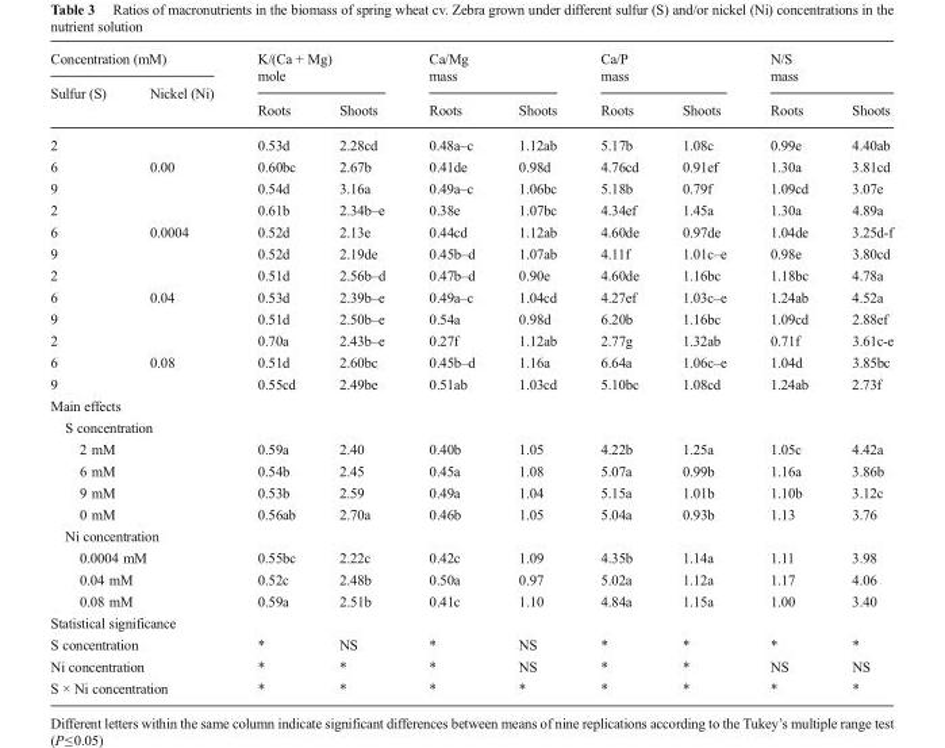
<table><thead><tr><td colspan="2">Concentration (mM)</td><td rowspan="2" colspan="2">K/(Ca + Mg) mole</td><td rowspan="2" colspan="2">Ca/Mg mass</td><td rowspan="2" colspan="2">Ca/P mass</td><td rowspan="2" colspan="2">N/S mass</td></tr><tr><td rowspan="2">Sulfur (S)</td><td rowspan="2">Nickel (Ni)</td></tr><tr><td>Roots</td><td>Shoots</td><td>Roots</td><td>Shoots</td><td>Roots</td><td>Shoots</td><td>Roots</td><td>Shoots</td></tr></thead><tbody><tr><td>2</td><td></td><td>0.53d</td><td>2.28cd</td><td>0.48a–c</td><td>1.12ab</td><td>5.17b</td><td>1.08c</td><td>0.99e</td><td>4.40ab</td></tr><tr><td>6</td><td>0.00</td><td>0.60bc</td><td>2.67b</td><td>0.41de</td><td>0.98d</td><td>4.76cd</td><td>0.91ef</td><td>1.30a</td><td>3.81cd</td></tr><tr><td>9</td><td></td><td>0.54d</td><td>3.16a</td><td>0.49a–c</td><td>1.06bc</td><td>5.18b</td><td>0.79f</td><td>1.09cd</td><td>3.07e</td></tr><tr><td>2</td><td></td><td>0.61b</td><td>2.34b–e</td><td>0.38e</td><td>1.07bc</td><td>4.34ef</td><td>1.45a</td><td>1.30a</td><td>4.89a</td></tr><tr><td>6</td><td>0.0004</td><td>0.52d</td><td>2.13e</td><td>0.44cd</td><td>1.12ab</td><td>4.60de</td><td>0.97de</td><td>1.04de</td><td>3.25d-f</td></tr><tr><td>9</td><td></td><td>0.52d</td><td>2.19de</td><td>0.45b–d</td><td>1.07ab</td><td>4.11f</td><td>1.01c–e</td><td>0.98e</td><td>3.80cd</td></tr><tr><td>2</td><td></td><td>0.51d</td><td>2.56b–d</td><td>0.47b–d</td><td>0.90e</td><td>4.60de</td><td>1.16bc</td><td>1.18bc</td><td>4.78a</td></tr><tr><td>6</td><td>0.04</td><td>0.53d</td><td>2.39b–e</td><td>0.49a–c</td><td>1.04cd</td><td>4.27ef</td><td>1.03c–e</td><td>1.24ab</td><td>4.52a</td></tr><tr><td>9</td><td></td><td>0.51d</td><td>2.50b–e</td><td>0.54a</td><td>0.98d</td><td>6.20b</td><td>1.16bc</td><td>1.09cd</td><td>2.88ef</td></tr><tr><td>2</td><td></td><td>0.70a</td><td>2.43b–e</td><td>0.27f</td><td>1.12ab</td><td>2.77g</td><td>1.32ab</td><td>0.71f</td><td>3.61c-e</td></tr><tr><td>6</td><td>0.08</td><td>0.51d</td><td>2.60bc</td><td>0.45b–d</td><td>1.16a</td><td>6.64a</td><td>1.06c–e</td><td>1.04d</td><td>3.85bc</td></tr><tr><td>9</td><td></td><td>0.55cd</td><td>2.49be</td><td>0.51ab</td><td>1.03cd</td><td>5.10bc</td><td>1.08cd</td><td>1.24ab</td><td>2.73f</td></tr><tr><td colspan="10">Main effects</td></tr><tr><td colspan="10">S concentration</td></tr><tr><td colspan="2">2 mM</td><td>0.59a</td><td>2.40</td><td>0.40b</td><td>1.05</td><td>4.22b</td><td>1.25a</td><td>1.05c</td><td>4.42a</td></tr><tr><td colspan="2">6 mM</td><td>0.54b</td><td>2.45</td><td>0.45a</td><td>1.08</td><td>5.07a</td><td>0.99b</td><td>1.16a</td><td>3.86b</td></tr><tr><td colspan="2">9 mM</td><td>0.53b</td><td>2.59</td><td>0.49a</td><td>1.04</td><td>5.15a</td><td>1.01b</td><td>1.10b</td><td>3.12c</td></tr><tr><td colspan="2">0 mM</td><td>0.56ab</td><td>2.70a</td><td>0.46b</td><td>1.05</td><td>5.04a</td><td>0.93b</td><td>1.13</td><td>3.76</td></tr><tr><td colspan="10">Ni concentration</td></tr><tr><td colspan="2">0.0004 mM</td><td>0.55bc</td><td>2.22c</td><td>0.42c</td><td>1.09</td><td>4.35b</td><td>1.14a</td><td>1.11</td><td>3.98</td></tr><tr><td colspan="2">0.04 mM</td><td>0.52c</td><td>2.48b</td><td>0.50a</td><td>0.97</td><td>5.02a</td><td>1.12a</td><td>1.17</td><td>4.06</td></tr><tr><td colspan="2">0.08 mM</td><td>0.59a</td><td>2.51b</td><td>0.41c</td><td>1.10</td><td>4.84a</td><td>1.15a</td><td>1.00</td><td>3.40</td></tr><tr><td colspan="10">Statistical significance</td></tr><tr><td colspan="2">S concentration</td><td>*</td><td>NS</td><td>*</td><td>NS</td><td>*</td><td>*</td><td>*</td><td>*</td></tr><tr><td colspan="2">Ni concentration</td><td>*</td><td>*</td><td>*</td><td>NS</td><td>*</td><td>*</td><td>NS</td><td>NS</td></tr><tr><td colspan="2">S × Ni concentration</td><td>*</td><td>*</td><td>*</td><td>*</td><td>*</td><td>*</td><td>*</td><td>*</td></tr></tbody></table>